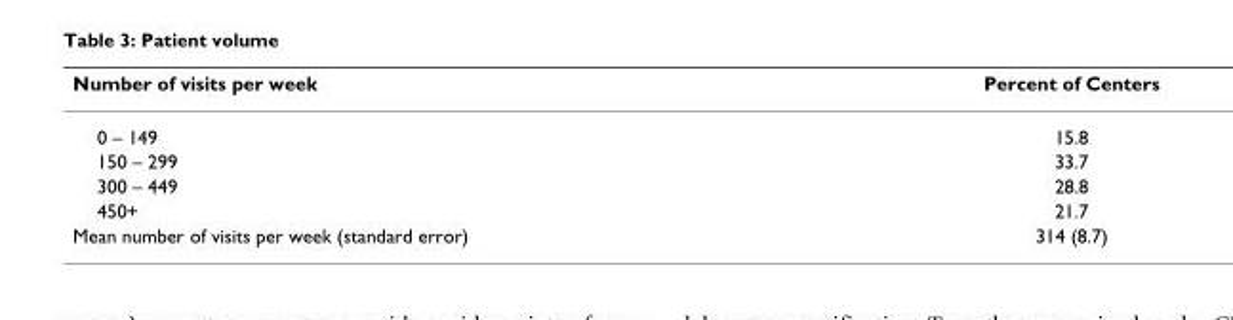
<table><thead><tr><td>Number of visits per week</td><td>Percent of Centers</td></tr></thead><tbody><tr><td>0 – 149</td><td>15.8</td></tr><tr><td>150 – 299</td><td>33.7</td></tr><tr><td>300 – 449</td><td>28.8</td></tr><tr><td>450+</td><td>21.7</td></tr><tr><td>Mean number of visits per week (standard error)</td><td>314 (8.7)</td></tr></tbody></table>